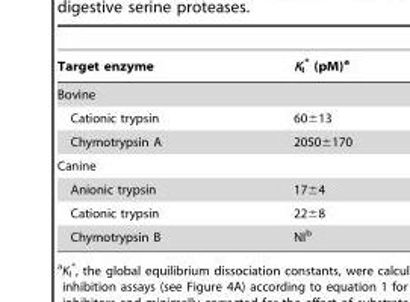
<table><thead><tr><td>Target enzyme</td><td>K<sub>I</sub> * (pM)<sup>a</sup></td></tr></thead><tbody><tr><td colspan="2">Bovine</td></tr><tr><td>Cationic trypsin</td><td>60±13</td></tr><tr><td>Chymotrypsin A</td><td>2050±170</td></tr><tr><td colspan="2">Canine</td></tr><tr><td>Anionic trypsin</td><td>17±4</td></tr><tr><td>Cationic trypsin</td><td>22±8</td></tr><tr><td>Chymotrypsin B</td><td>NI<sup>b</sup></td></tr></tbody></table>